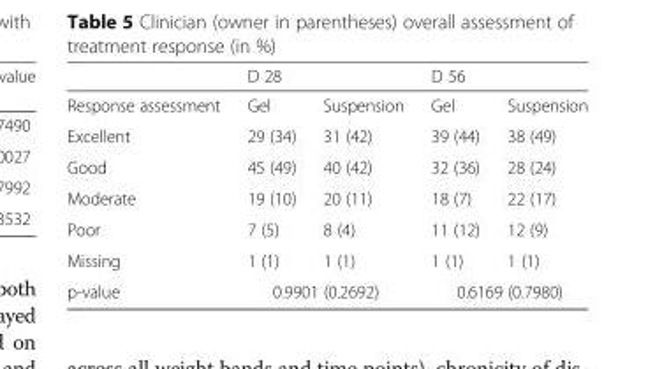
<table><thead><tr><td rowspan="2">Response assessment</td><td colspan="2">D 28</td><td colspan="2">D 56</td></tr><tr><td>Gel</td><td>Suspension</td><td>Gel</td><td>Suspension</td></tr></thead><tbody><tr><td>Excellent</td><td>29 (34)</td><td>31 (42)</td><td>39 (44)</td><td>38 (49)</td></tr><tr><td>Good</td><td>45 (49)</td><td>40 (42)</td><td>32 (36)</td><td>28 (24)</td></tr><tr><td>Moderate</td><td>19 (10)</td><td>20 (11)</td><td>18 (7)</td><td>22 (17)</td></tr><tr><td>Poor</td><td>7 (5)</td><td>8 (4)</td><td>11 (12)</td><td>12 (9)</td></tr><tr><td>Missing</td><td>1 (1)</td><td>1 (1)</td><td>1 (1)</td><td>1 (1)</td></tr><tr><td>p-value</td><td colspan="2">0.9901 (0.2692)</td><td colspan="2">0.6169 (0.7980)</td></tr></tbody></table>